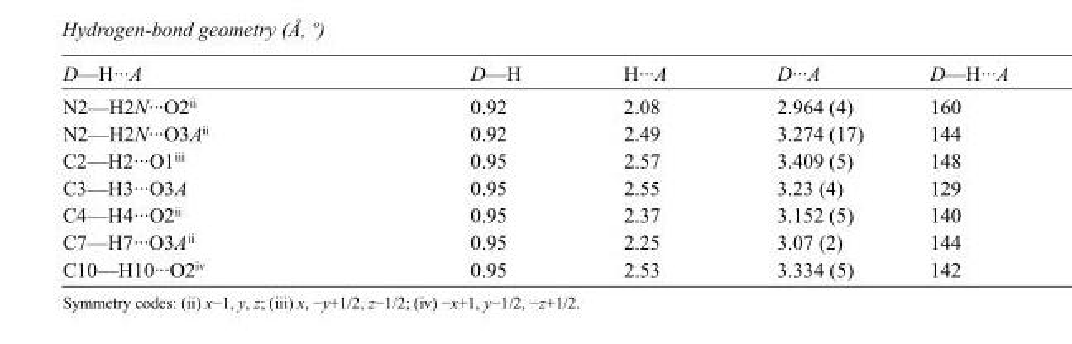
<table><tbody><tr><td>D—H···A</td><td>D—H</td><td>H···A</td><td>D···A</td><td>D—H···A</td></tr><tr><td>N2—H2N···O2<sup>ii</sup></td><td>0.92</td><td>2.08</td><td>2.964 (4)</td><td>160</td></tr><tr><td>N2—H2N···O3A<sup>ii</sup></td><td>0.92</td><td>2.49</td><td>3.274 (17)</td><td>144</td></tr><tr><td>C2—H2···O1<sup>iii</sup></td><td>0.95</td><td>2.57</td><td>3.409 (5)</td><td>148</td></tr><tr><td>C3—H3···O3A</td><td>0.95</td><td>2.55</td><td>3.23 (4)</td><td>129</td></tr><tr><td>C4—H4···O2<sup>ii</sup></td><td>0.95</td><td>2.37</td><td>3.152 (5)</td><td>140</td></tr><tr><td>C7—H7···O3A<sup>ii</sup></td><td>0.95</td><td>2.25</td><td>3.07 (2)</td><td>144</td></tr><tr><td>C10—H10···O2<sup>iv</sup></td><td>0.95</td><td>2.53</td><td>3.334 (5)</td><td>142</td></tr></tbody></table>